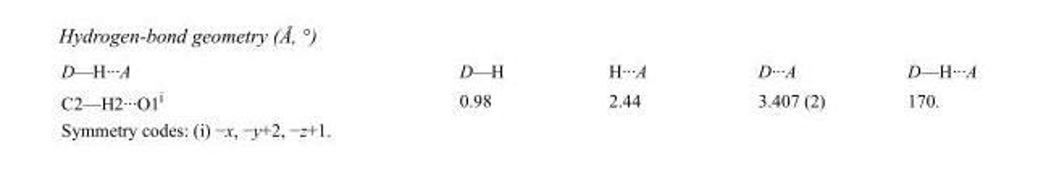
<table><tbody><tr><td>D—H···A</td><td>D—H</td><td>H···A</td><td>D···A</td><td>D—H···A</td></tr><tr><td>C2—H2···O1<sup>i</sup></td><td>0.98</td><td>2.44</td><td>3.407 (2)</td><td>170.</td></tr></tbody></table>